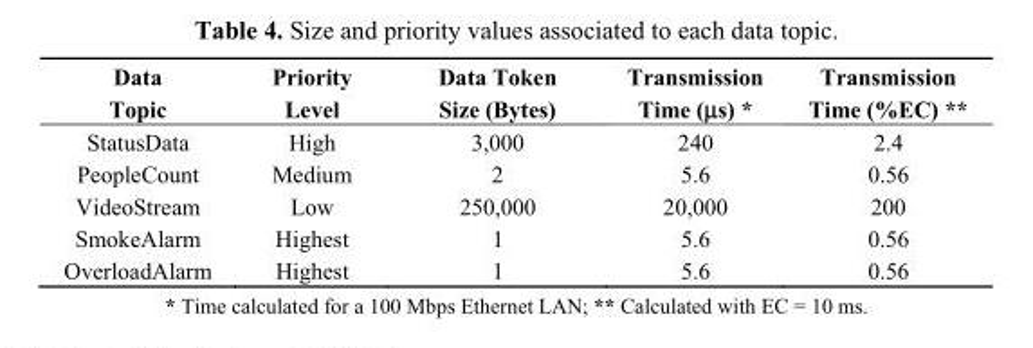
<table><thead><tr><td>Data Topic</td><td>Priority Level</td><td>Data Token Size (Bytes)</td><td>Transmission Time (μs) *</td><td>Transmission Time (%EC) **</td></tr></thead><tbody><tr><td>StatusData</td><td>High</td><td>3,000</td><td>240</td><td>2.4</td></tr><tr><td>PeopleCount</td><td>Medium</td><td>2</td><td>5.6</td><td>0.56</td></tr><tr><td>VideoStream</td><td>Low</td><td>250,000</td><td>20,000</td><td>200</td></tr><tr><td>SmokeAlarm</td><td>Highest</td><td>1</td><td>5.6</td><td>0.56</td></tr><tr><td>OverloadAlarm</td><td>Highest</td><td>1</td><td>5.6</td><td>0.56</td></tr></tbody></table>